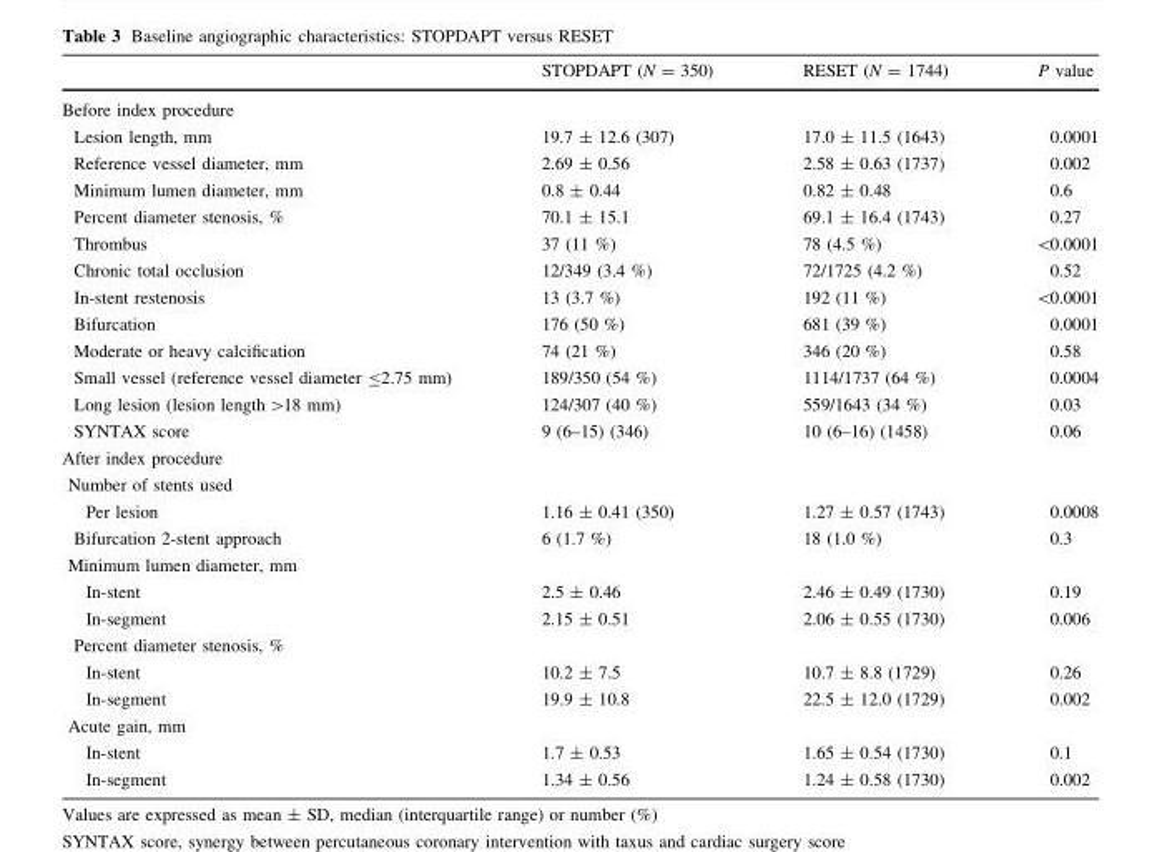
<table><thead><tr><td></td><td>STOPDAPT (N = 350)</td><td>RESET (N = 1744)</td><td>P value</td></tr></thead><tbody><tr><td colspan="4">Before index procedure</td></tr><tr><td>Lesion length, mm</td><td>19.7 ± 12.6 (307)</td><td>17.0 ± 11.5 (1643)</td><td>0.0001</td></tr><tr><td>Reference vessel diameter, mm</td><td>2.69 ± 0.56</td><td>2.58 ± 0.63 (1737)</td><td>0.002</td></tr><tr><td>Minimum lumen diameter, mm</td><td>0.8 ± 0.44</td><td>0.82 ± 0.48</td><td>0.6</td></tr><tr><td>Percent diameter stenosis, %</td><td>70.1 ± 15.1</td><td>69.1 ± 16.4 (1743)</td><td>0.27</td></tr><tr><td>Thrombus</td><td>37 (11 %)</td><td>78 (4.5 %)</td><td>&lt;0.0001</td></tr><tr><td>Chronic total occlusion</td><td>12/349 (3.4 %)</td><td>72/1725 (4.2 %)</td><td>0.52</td></tr><tr><td>In-stent restenosis</td><td>13 (3.7 %)</td><td>192 (11 %)</td><td>&lt;0.0001</td></tr><tr><td>Bifurcation</td><td>176 (50 %)</td><td>681 (39 %)</td><td>0.0001</td></tr><tr><td>Moderate or heavy calcification</td><td>74 (21 %)</td><td>346 (20 %)</td><td>0.58</td></tr><tr><td>Small vessel (reference vessel diameter ≤2.75 mm)</td><td>189/350 (54 %)</td><td>1114/1737 (64 %)</td><td>0.0004</td></tr><tr><td>Long lesion (lesion length &gt;18 mm)</td><td>124/307 (40 %)</td><td>559/1643 (34 %)</td><td>0.03</td></tr><tr><td>SYNTAX score</td><td>9 (6–15) (346)</td><td>10 (6–16) (1458)</td><td>0.06</td></tr><tr><td colspan="4">After index procedure</td></tr><tr><td colspan="4">Number of stents used</td></tr><tr><td>Per lesion</td><td>1.16 ± 0.41 (350)</td><td>1.27 ± 0.57 (1743)</td><td>0.0008</td></tr><tr><td>Bifurcation 2-stent approach</td><td>6 (1.7 %)</td><td>18 (1.0 %)</td><td>0.3</td></tr><tr><td colspan="4">Minimum lumen diameter, mm</td></tr><tr><td>In-stent</td><td>2.5 ± 0.46</td><td>2.46 ± 0.49 (1730)</td><td>0.19</td></tr><tr><td>In-segment</td><td>2.15 ± 0.51</td><td>2.06 ± 0.55 (1730)</td><td>0.006</td></tr><tr><td colspan="4">Percent diameter stenosis, %</td></tr><tr><td>In-stent</td><td>10.2 ± 7.5</td><td>10.7 ± 8.8 (1729)</td><td>0.26</td></tr><tr><td>In-segment</td><td>19.9 ± 10.8</td><td>22.5 ± 12.0 (1729)</td><td>0.002</td></tr><tr><td colspan="4">Acute gain, mm</td></tr><tr><td>In-stent</td><td>1.7 ± 0.53</td><td>1.65 ± 0.54 (1730)</td><td>0.1</td></tr><tr><td>In-segment</td><td>1.34 ± 0.56</td><td>1.24 ± 0.58 (1730)</td><td>0.002</td></tr></tbody></table>